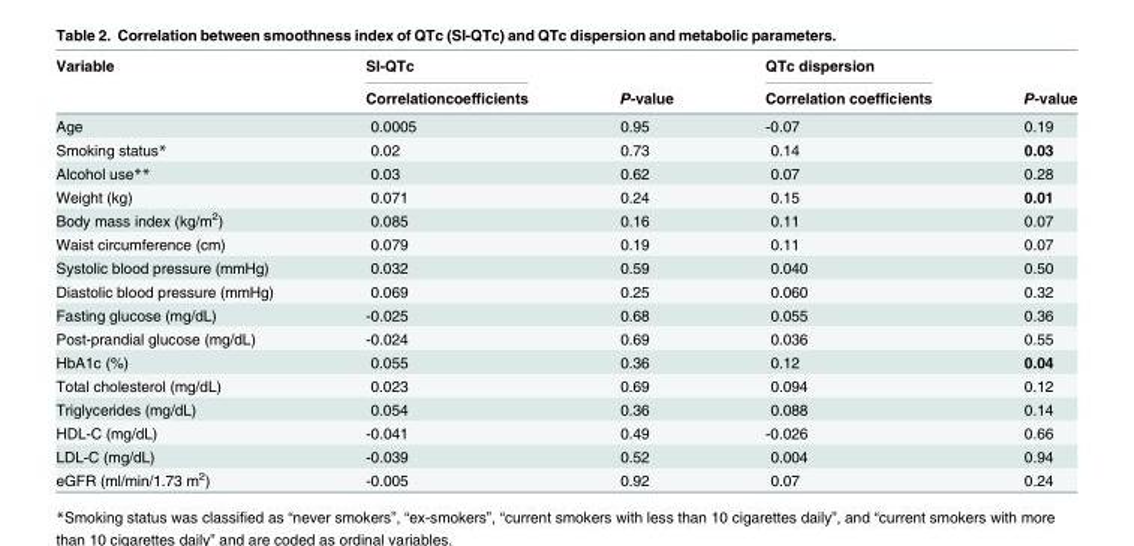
<table><thead><tr><td rowspan="2">Variable</td><td rowspan="2">SI-QTc Correlationcoefficients</td><td rowspan="2">P-value</td><td rowspan="2">QTc dispersion Correlation coefficients</td><td rowspan="2">P-value</td></tr><tr></tr></thead><tbody><tr><td>Age</td><td>0.0005</td><td>0.95</td><td>-0.07</td><td>0.19</td></tr><tr><td>Smoking status*</td><td>0.02</td><td>0.73</td><td>0.14</td><td>0.03</td></tr><tr><td>Alcohol use**</td><td>0.03</td><td>0.62</td><td>0.07</td><td>0.28</td></tr><tr><td>Weight (kg)</td><td>0.071</td><td>0.24</td><td>0.15</td><td>0.01</td></tr><tr><td>Body mass index (kg/m<sup>2</sup>)</td><td>0.085</td><td>0.16</td><td>0.11</td><td>0.07</td></tr><tr><td>Waist circumference (cm)</td><td>0.079</td><td>0.19</td><td>0.11</td><td>0.07</td></tr><tr><td>Systolic blood pressure (mmHg)</td><td>0.032</td><td>0.59</td><td>0.040</td><td>0.50</td></tr><tr><td>Diastolic blood pressure (mmHg)</td><td>0.069</td><td>0.25</td><td>0.060</td><td>0.32</td></tr><tr><td>Fasting glucose (mg/dL)</td><td>-0.025</td><td>0.68</td><td>0.055</td><td>0.36</td></tr><tr><td>Post-prandial glucose (mg/dL)</td><td>-0.024</td><td>0.69</td><td>0.036</td><td>0.55</td></tr><tr><td>HbA1c (%)</td><td>0.055</td><td>0.36</td><td>0.12</td><td>0.04</td></tr><tr><td>Total cholesterol (mg/dL)</td><td>0.023</td><td>0.69</td><td>0.094</td><td>0.12</td></tr><tr><td>Triglycerides (mg/dL)</td><td>0.054</td><td>0.36</td><td>0.088</td><td>0.14</td></tr><tr><td>HDL-C (mg/dL)</td><td>-0.041</td><td>0.49</td><td>-0.026</td><td>0.66</td></tr><tr><td>LDL-C (mg/dL)</td><td>-0.039</td><td>0.52</td><td>0.004</td><td>0.94</td></tr><tr><td>eGFR (ml/min/1.73 m<sup>2</sup>)</td><td>-0.005</td><td>0.92</td><td>0.07</td><td>0.24</td></tr></tbody></table>